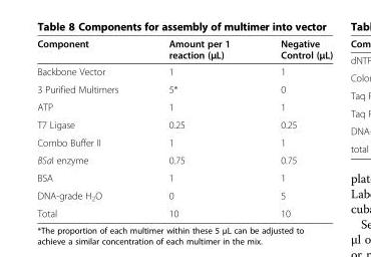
<table><thead><tr><td>Component</td><td>Amount per 1 reaction (μL)</td><td>Negative Control (μL)</td></tr></thead><tbody><tr><td>Backbone Vector</td><td>1</td><td>1</td></tr><tr><td>3 Purified Multimers</td><td>5*</td><td>0</td></tr><tr><td>ATP</td><td>1</td><td>1</td></tr><tr><td>T7 Ligase</td><td>0.25</td><td>0.25</td></tr><tr><td>Combo Buffer II</td><td>1</td><td>1</td></tr><tr><td>BSaI enzyme</td><td>0.75</td><td>0.75</td></tr><tr><td>BSA</td><td>1</td><td>1</td></tr><tr><td>DNA-grade H<sub>2</sub>O</td><td>0</td><td>5</td></tr><tr><td>Total</td><td>10</td><td>10</td></tr></tbody></table>